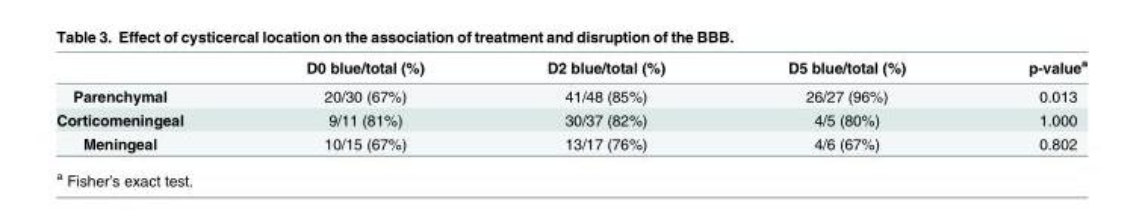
<table><thead><tr><td></td><td>D0 blue/total (%)</td><td>D2 blue/total (%)</td><td>D5 blue/total (%)</td><td>p-value<sup>a</sup></td></tr></thead><tbody><tr><td>Parenchymal</td><td>20/30 (67%)</td><td>41/48 (85%)</td><td>26/27 (96%)</td><td>0.013</td></tr><tr><td>Corticomeningeal</td><td>9/11 (81%)</td><td>30/37 (82%)</td><td>4/5 (80%)</td><td>1.000</td></tr><tr><td>Meningeal</td><td>10/15 (67%)</td><td>13/17 (76%)</td><td>4/6 (67%)</td><td>0.802</td></tr></tbody></table>